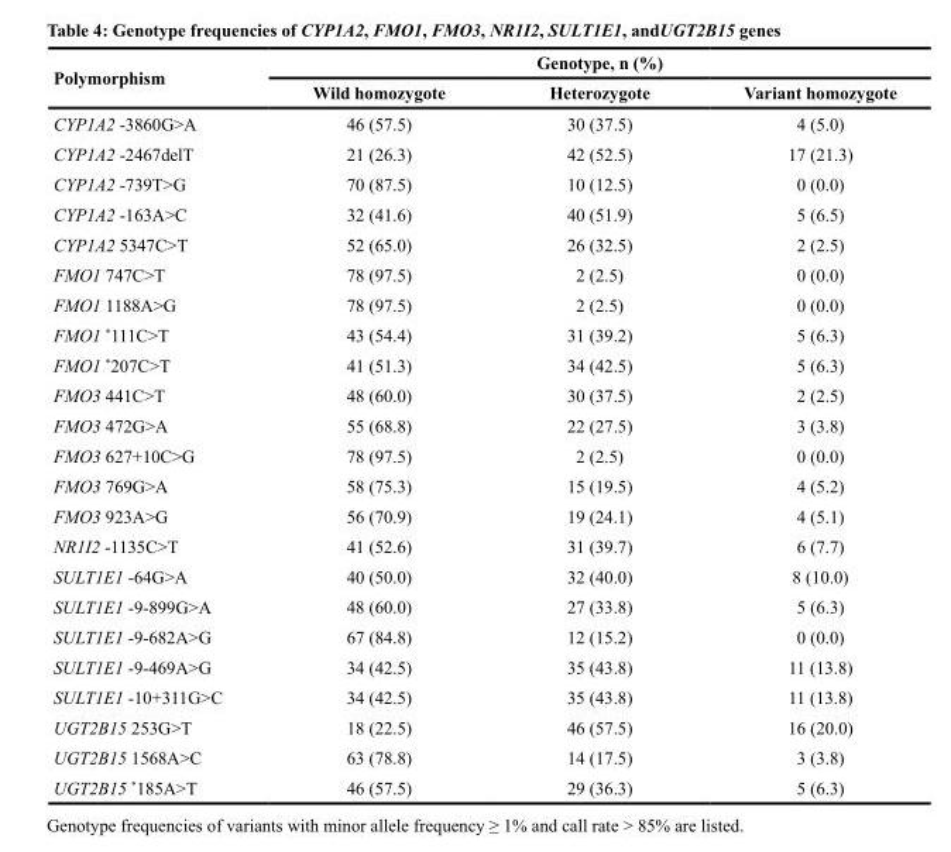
<table><thead><tr><td rowspan="2">Polymorphism</td><td colspan="3">Genotype, n (%)</td></tr><tr><td>Wild homozygote</td><td>Heterozygote</td><td>Variant homozygote</td></tr></thead><tbody><tr><td>CYP1A2 -3860G&gt;A</td><td>46 (57.5)</td><td>30 (37.5)</td><td>4 (5.0)</td></tr><tr><td>CYP1A2 -2467delT</td><td>21 (26.3)</td><td>42 (52.5)</td><td>17 (21.3)</td></tr><tr><td>CYP1A2 -739T&gt;G</td><td>70 (87.5)</td><td>10 (12.5)</td><td>0 (0.0)</td></tr><tr><td>CYP1A2 -163A&gt;C</td><td>32 (41.6)</td><td>40 (51.9)</td><td>5 (6.5)</td></tr><tr><td>CYP1A2 5347C&gt;T</td><td>52 (65.0)</td><td>26 (32.5)</td><td>2 (2.5)</td></tr><tr><td>FMO1 747C&gt;T</td><td>78 (97.5)</td><td>2 (2.5)</td><td>0 (0.0)</td></tr><tr><td>FMO1 1188A&gt;G</td><td>78 (97.5)</td><td>2 (2.5)</td><td>0 (0.0)</td></tr><tr><td>FMO1 *111C&gt;T</td><td>43 (54.4)</td><td>31 (39.2)</td><td>5 (6.3)</td></tr><tr><td>FMO1 *207C&gt;T</td><td>41 (51.3)</td><td>34 (42.5)</td><td>5 (6.3)</td></tr><tr><td>FMO3 441C&gt;T</td><td>48 (60.0)</td><td>30 (37.5)</td><td>2 (2.5)</td></tr><tr><td>FMO3 472G&gt;A</td><td>55 (68.8)</td><td>22 (27.5)</td><td>3 (3.8)</td></tr><tr><td>FMO3 627+10C&gt;G</td><td>78 (97.5)</td><td>2 (2.5)</td><td>0 (0.0)</td></tr><tr><td>FMO3 769G&gt;A</td><td>58 (75.3)</td><td>15 (19.5)</td><td>4 (5.2)</td></tr><tr><td>FMO3 923A&gt;G</td><td>56 (70.9)</td><td>19 (24.1)</td><td>4 (5.1)</td></tr><tr><td>NR1I2 -1135C&gt;T</td><td>41 (52.6)</td><td>31 (39.7)</td><td>6 (7.7)</td></tr><tr><td>SULT1E1 -64G&gt;A</td><td>40 (50.0)</td><td>32 (40.0)</td><td>8 (10.0)</td></tr><tr><td>SULT1E1 -9-899G&gt;A</td><td>48 (60.0)</td><td>27 (33.8)</td><td>5 (6.3)</td></tr><tr><td>SULT1E1 -9-682A&gt;G</td><td>67 (84.8)</td><td>12 (15.2)</td><td>0 (0.0)</td></tr><tr><td>SULT1E1 -9-469A&gt;G</td><td>34 (42.5)</td><td>35 (43.8)</td><td>11 (13.8)</td></tr><tr><td>SULT1E1 -10+311G&gt;C</td><td>34 (42.5)</td><td>35 (43.8)</td><td>11 (13.8)</td></tr><tr><td>UGT2B15 253G&gt;T</td><td>18 (22.5)</td><td>46 (57.5)</td><td>16 (20.0)</td></tr><tr><td>UGT2B15 1568A&gt;C</td><td>63 (78.8)</td><td>14 (17.5)</td><td>3 (3.8)</td></tr><tr><td>UGT2B15 *185A&gt;T</td><td>46 (57.5)</td><td>29 (36.3)</td><td>5 (6.3)</td></tr></tbody></table>